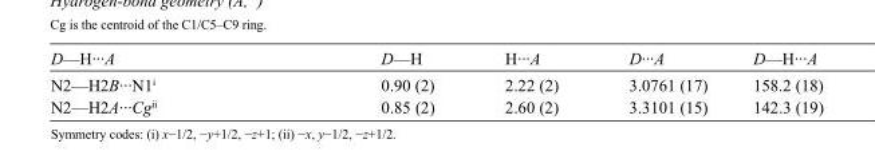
<table><tbody><tr><td>D—H···A</td><td>D—H</td><td>H···A</td><td>D···A</td><td>D—H···A</td></tr><tr><td>N2—H2B···N1<sup>i</sup></td><td>0.90 (2)</td><td>2.22 (2)</td><td>3.0761 (17)</td><td>158.2 (18)</td></tr><tr><td>N2—H2A···Cg<sup>ii</sup></td><td>0.85 (2)</td><td>2.60 (2)</td><td>3.3101 (15)</td><td>142.3 (19)</td></tr></tbody></table>